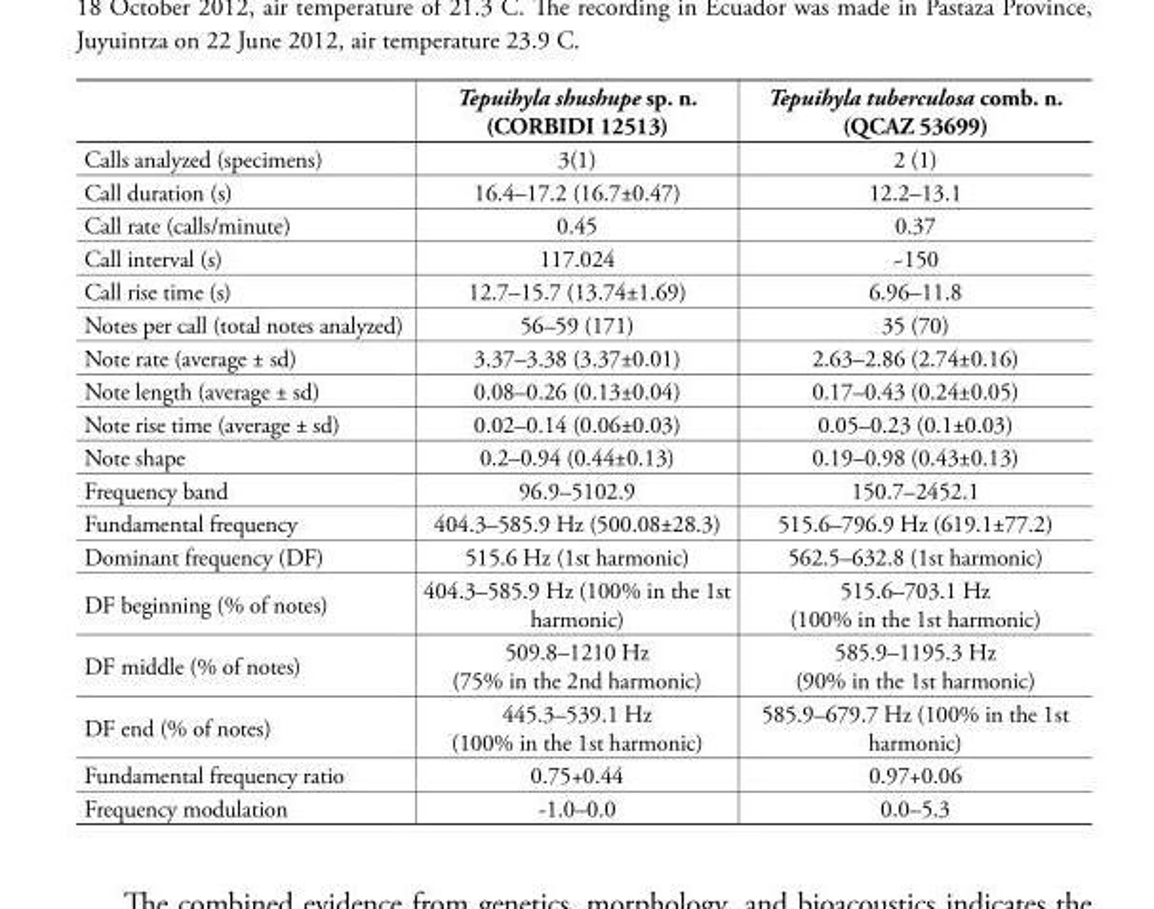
<table><thead><tr><td></td><td>Tepuihyla shushupe sp. n. (CORBIDI 12513)</td><td>Tepuihyla tuberculosa comb. n. (QCAZ 53699)</td></tr></thead><tbody><tr><td>Calls analyzed (specimens)</td><td>3(1)</td><td>2 (1)</td></tr><tr><td>Call duration (s)</td><td>16.4–17.2 (16.7±0.47)</td><td>12.2–13.1</td></tr><tr><td>Call rate (calls/minute)</td><td>0.45</td><td>0.37</td></tr><tr><td>Call interval (s)</td><td>117.024</td><td>~150</td></tr><tr><td>Call rise time (s)</td><td>12.7–15.7 (13.74±1.69)</td><td>6.96–11.8</td></tr><tr><td>Notes per call (total notes analyzed)</td><td>56–59 (171)</td><td>35 (70)</td></tr><tr><td>Note rate (average ± sd)</td><td>3.37–3.38 (3.37±0.01)</td><td>2.63–2.86 (2.74±0.16)</td></tr><tr><td>Note length (average ± sd)</td><td>0.08–0.26 (0.13±0.04)</td><td>0.17–0.43 (0.24±0.05)</td></tr><tr><td>Note rise time (average ± sd)</td><td>0.02–0.14 (0.06±0.03)</td><td>0.05–0.23 (0.1±0.03)</td></tr><tr><td>Note shape</td><td>0.2–0.94 (0.44±0.13)</td><td>0.19–0.98 (0.43±0.13)</td></tr><tr><td>Frequency band</td><td>96.9–5102.9</td><td>150.7–2452.1</td></tr><tr><td>Fundamental frequency</td><td>404.3–585.9 Hz (500.08±28.3)</td><td>515.6–796.9 Hz (619.1±77.2)</td></tr><tr><td>Dominant frequency (DF)</td><td>515.6 Hz (1st harmonic)</td><td>562.5–632.8 (1st harmonic)</td></tr><tr><td>DF beginning (% of notes)</td><td>404.3–585.9 Hz (100% in the 1st harmonic)</td><td>515.6–703.1 Hz (100% in the 1st harmonic)</td></tr><tr><td>DF middle (% of notes)</td><td>509.8–1210 Hz (75% in the 2nd harmonic)</td><td>585.9–1195.3 Hz (90% in the 1st harmonic)</td></tr><tr><td>DF end (% of notes)</td><td>445.3–539.1 Hz (100% in the 1st harmonic)</td><td>585.9–679.7 Hz (100% in the 1st harmonic)</td></tr><tr><td>Fundamental frequency ratio</td><td>0.75+0.44</td><td>0.97+0.06</td></tr><tr><td>Frequency modulation</td><td>-1.0–0.0</td><td>0.0–5.3</td></tr></tbody></table>